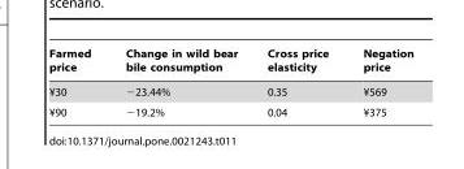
<table><thead><tr><td>Farmed price</td><td>Change in wild bear bile consumption</td><td>Cross price elasticity</td><td>Negation price</td></tr></thead><tbody><tr><td>¥30</td><td>−23.44%</td><td>0.35</td><td>¥569</td></tr><tr><td>¥90</td><td>−19.2%</td><td>0.04</td><td>¥375</td></tr></tbody></table>